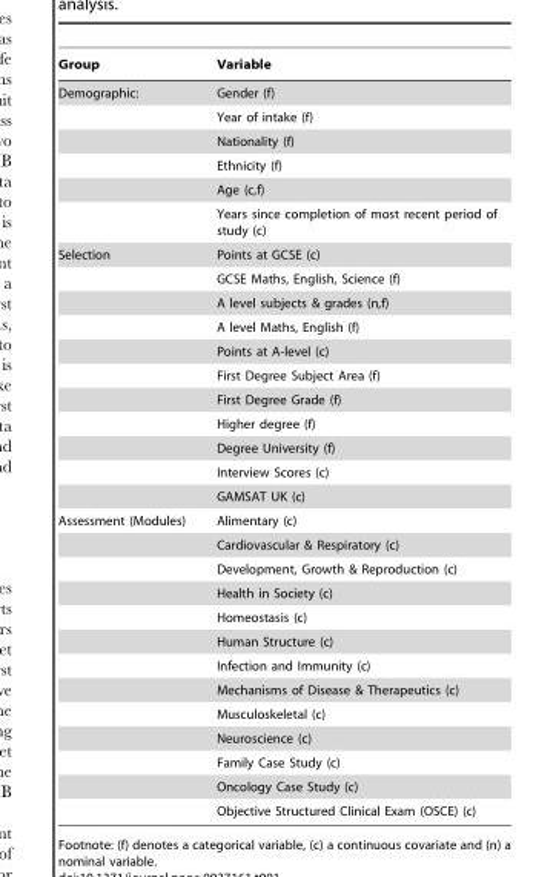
<table><thead><tr><td>Group</td><td>Variable</td></tr></thead><tbody><tr><td rowspan="6">Demographic:</td><td>Gender (f)</td></tr><tr><td>Year of intake (f)</td></tr><tr><td>Nationality (f)</td></tr><tr><td>Ethnicity (f)</td></tr><tr><td>Age (c,f)</td></tr><tr><td>Years since completion of most recent period of study (c)</td></tr><tr><td rowspan="11">Selection</td><td>Points at GCSE (c)</td></tr><tr><td>GCSE Maths, English, Science (f)</td></tr><tr><td>A level subjects &amp; grades (n,f)</td></tr><tr><td>A level Maths, English (f)</td></tr><tr><td>Points at A-level (c)</td></tr><tr><td>First Degree Subject Area (f)</td></tr><tr><td>First Degree Grade (f)</td></tr><tr><td>Higher degree (f)</td></tr><tr><td>Degree University (f)</td></tr><tr><td>Interview Scores (c)</td></tr><tr><td>GAMSAT UK (c)</td></tr><tr><td rowspan="13">Assessment (Modules)</td><td>Alimentary (c)</td></tr><tr><td>Cardiovascular &amp; Respiratory (c)</td></tr><tr><td>Development, Growth &amp; Reproduction (c)</td></tr><tr><td>Health in Society (c)</td></tr><tr><td>Homeostasis (c)</td></tr><tr><td>Human Structure (c)</td></tr><tr><td>Infection and Immunity (c)</td></tr><tr><td>Mechanisms of Disease &amp; Therapeutics (c)</td></tr><tr><td>Musculoskeletal (c)</td></tr><tr><td>Neuroscience (c)</td></tr><tr><td>Family Case Study (c)</td></tr><tr><td>Oncology Case Study (c)</td></tr><tr><td>Objective Structured Clinical Exam (OSCE) (c)</td></tr></tbody></table>